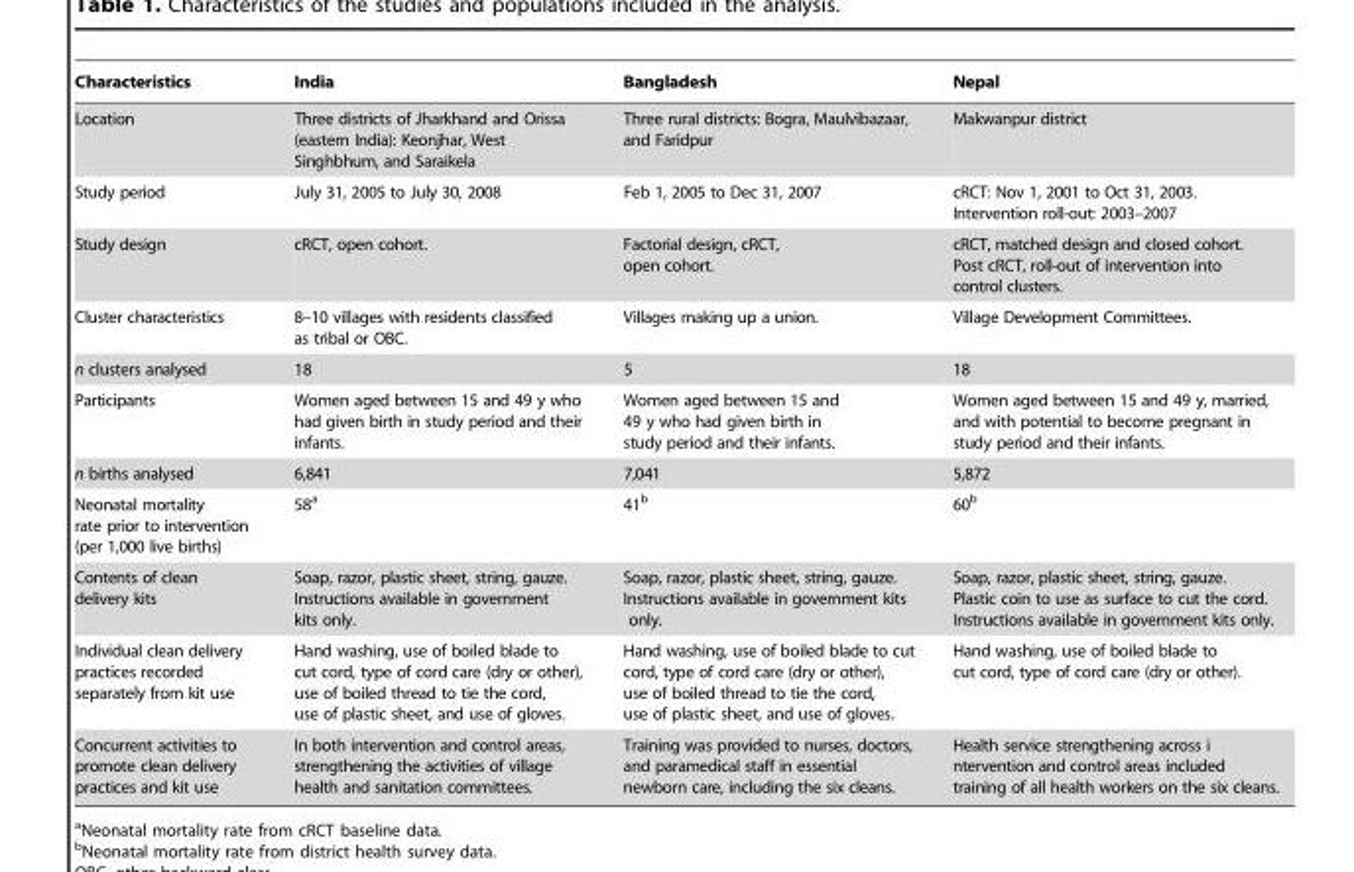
<table><thead><tr><td>Characteristics</td><td>India</td><td>Bangladesh</td><td>Nepal</td></tr></thead><tbody><tr><td>Location</td><td>Three districts of Jharkhand and Orissa (eastern India): Keonjhar, West Singhbhum, and Saraikela</td><td>Three rural districts: Bogra, Maulvibazaar, and Faridpur</td><td>Makwanpur district</td></tr><tr><td>Study period</td><td>July 31, 2005 to July 30, 2008</td><td>Feb 1, 2005 to Dec 31, 2007</td><td>cRCT: Nov 1, 2001 to Oct 31, 2003. Intervention roll-out: 2003–2007</td></tr><tr><td>Study design</td><td>cRCT, open cohort.</td><td>Factorial design, cRCT, open cohort.</td><td>cRCT, matched design and closed cohort. Post cRCT, roll-out of intervention into control clusters.</td></tr><tr><td>Cluster characteristics</td><td>8–10 villages with residents classified as tribal or OBC.</td><td>Villages making up a union.</td><td>Village Development Committees.</td></tr><tr><td>n clusters analysed</td><td>18</td><td>5</td><td>18</td></tr><tr><td>Participants</td><td>Women aged between 15 and 49 y who had given birth in study period and their infants.</td><td>Women aged between 15 and 49 y who had given birth in study period and their infants.</td><td>Women aged between 15 and 49 y, married, and with potential to become pregnant in study period and their infants.</td></tr><tr><td>n births analysed</td><td>6,841</td><td>7,041</td><td>5,872</td></tr><tr><td>Neonatal mortality rate prior to intervention (per 1,000 live births)</td><td>58<sup>a</sup></td><td>41<sup>b</sup></td><td>60<sup>b</sup></td></tr><tr><td>Contents of clean delivery kits</td><td>Soap, razor, plastic sheet, string, gauze. Instructions available in government kits only.</td><td>Soap, razor, plastic sheet, string, gauze. Instructions available in government kits only.</td><td>Soap, razor, plastic sheet, string, gauze. Plastic coin to use as surface to cut the cord. Instructions available in government kits only.</td></tr><tr><td>Individual clean delivery practices recorded separately from kit use</td><td>Hand washing, use of boiled blade to cut cord, type of cord care (dry or other), use of boiled thread to tie the cord, use of plastic sheet, and use of gloves.</td><td>Hand washing, use of boiled blade to cut cord, type of cord care (dry or other), use of boiled thread to tie the cord, use of plastic sheet, and use of gloves.</td><td>Hand washing, use of boiled blade to cut cord, type of cord care (dry or other).</td></tr><tr><td>Concurrent activities to promote clean delivery practices and kit use</td><td>In both intervention and control areas, strengthening the activities of village health and sanitation committees.</td><td>Training was provided to nurses, doctors, and paramedical staff in essential newborn care, including the six cleans.</td><td>Health service strengthening across i ntervention and control areas included training of all health workers on the six cleans.</td></tr></tbody></table>